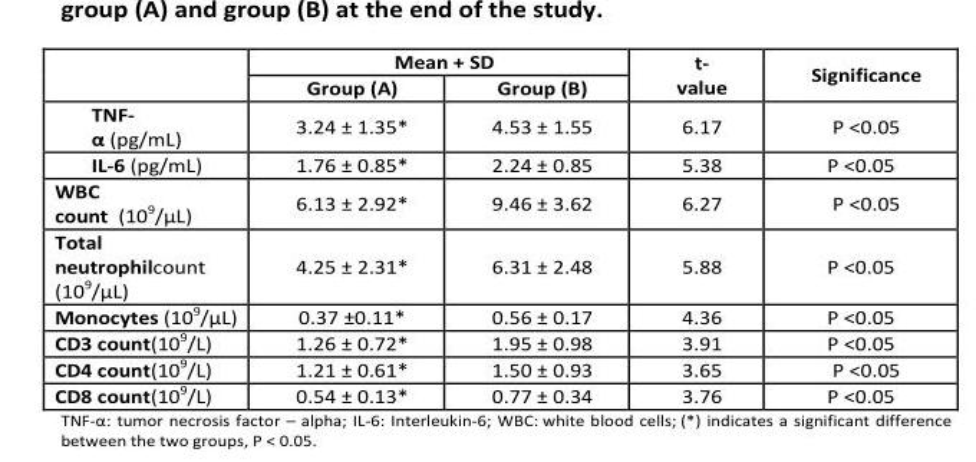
<table><thead><tr><td rowspan="2"></td><td colspan="2">Mean + SD</td><td rowspan="2">t- value</td><td rowspan="2">Significance</td></tr><tr><td>Group (A)</td><td>Group (B)</td></tr></thead><tbody><tr><td>TNF- α (pg/mL)</td><td>3.24 ± 1.35*</td><td>4.53 ± 1.55</td><td>6.17</td><td>P &lt;0.05</td></tr><tr><td>IL-6 (pg/mL)</td><td>1.76 ± 0.85*</td><td>2.24 ± 0.85</td><td>5.38</td><td>P &lt;0.05</td></tr><tr><td>WBC count (10<sup>9</sup>/µL)</td><td>6.13 ± 2.92*</td><td>9.46 ± 3.62</td><td>6.27</td><td>P &lt;0.05</td></tr><tr><td>Total neutrophilcount (10<sup>9</sup>/µL)</td><td>4.25 ± 2.31*</td><td>6.31 ± 2.48</td><td>5.88</td><td>P &lt;0.05</td></tr><tr><td>Monocytes (10<sup>9</sup>/µL)</td><td>0.37 ±0.11*</td><td>0.56 ± 0.17</td><td>4.36</td><td>P &lt;0.05</td></tr><tr><td>CD3 count(10<sup>9</sup>/L)</td><td>1.26 ± 0.72*</td><td>1.95 ± 0.98</td><td>3.91</td><td>P &lt;0.05</td></tr><tr><td>CD4 count(10<sup>9</sup>/L)</td><td>1.21 ± 0.61*</td><td>1.50 ± 0.93</td><td>3.65</td><td>P &lt;0.05</td></tr><tr><td>CD8 count(10<sup>9</sup>/L)</td><td>0.54 ± 0.13*</td><td>0.77 ± 0.34</td><td>3.76</td><td>P &lt;0.05</td></tr></tbody></table>